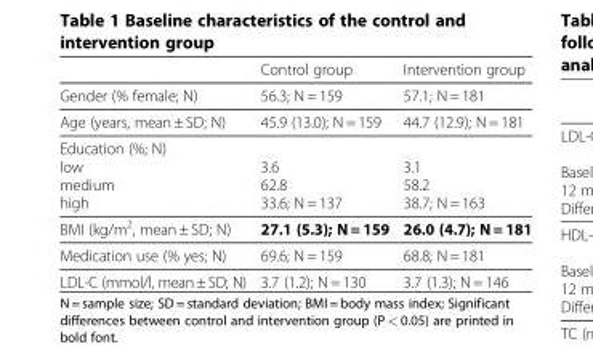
<table><thead><tr><td></td><td>Control group</td><td>Intervention group</td></tr></thead><tbody><tr><td>Gender (% female; N)</td><td>56.3; N = 159</td><td>57.1; N = 181</td></tr><tr><td>Age (years, mean ± SD; N)</td><td>45.9 (13.0); N = 159</td><td>44.7 (12.9); N = 181</td></tr><tr><td>Education (%; N) low medium high</td><td>3.6 62.8 33.6; N = 137</td><td>3.1 58.2 38.7; N = 163</td></tr><tr><td>BMI (kg/m<sup>2</sup>, mean ± SD; N)</td><td>27.1 (5.3); N = 159</td><td>26.0 (4.7); N = 181</td></tr><tr><td>Medication use (% yes; N)</td><td>69.6; N = 159</td><td>68.8; N = 181</td></tr><tr><td>LDL-C (mmol/l, mean± SD; N)</td><td>3.7 (1.2); N = 130</td><td>3.7 (1.3); N = 146</td></tr></tbody></table>